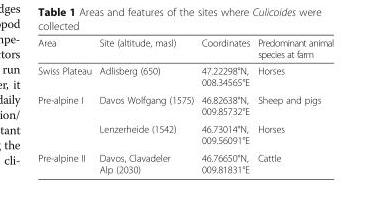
<table><thead><tr><td>Area</td><td>Site (altitude, masl)</td><td>Coordinates</td><td>Predominant animal species at farm</td></tr></thead><tbody><tr><td>Swiss Plateau</td><td>Adlisberg (650)</td><td>47.22298°N, 008.34565°E</td><td>Horses</td></tr><tr><td rowspan="2">Pre-alpine I</td><td>Davos Wolfgang (1575)</td><td>46.82638°N, 009.85732°E</td><td>Sheep and pigs</td></tr><tr><td>Lenzerheide (1542)</td><td>46.73014°N, 009.56091°E</td><td>Horses</td></tr><tr><td>Pre-alpine II</td><td>Davos, Clavadeler Alp (2030)</td><td>46.76650°N, 009.81831°E</td><td>Cattle</td></tr></tbody></table>